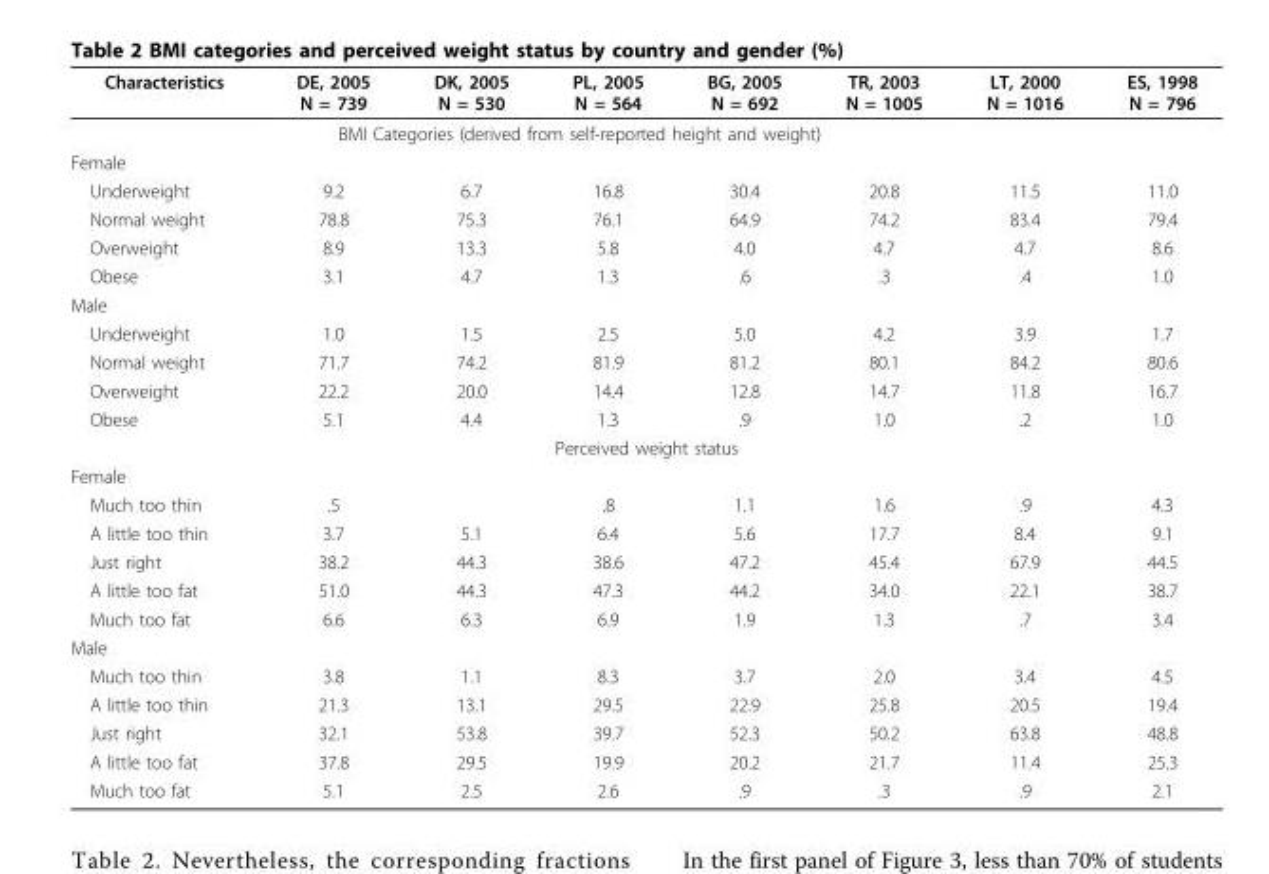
<table><thead><tr><td>Characteristics</td><td>DE, 2005 N = 739</td><td>DK, 2005 N = 530</td><td>PL, 2005 N = 564</td><td>BG, 2005 N = 692</td><td>TR, 2003 N = 1005</td><td>LT, 2000 N = 1016</td><td>ES, 1998 N = 796</td></tr></thead><tbody><tr><td colspan="8">BMI Categories (derived from self-reported height and weight)</td></tr><tr><td colspan="8">Female</td></tr><tr><td>Underweight</td><td>9.2</td><td>6.7</td><td>16.8</td><td>30.4</td><td>20.8</td><td>11.5</td><td>11.0</td></tr><tr><td>Normal weight</td><td>78.8</td><td>75.3</td><td>76.1</td><td>64.9</td><td>74.2</td><td>83.4</td><td>79.4</td></tr><tr><td>Overweight</td><td>8.9</td><td>13.3</td><td>5.8</td><td>4.0</td><td>4.7</td><td>4.7</td><td>8.6</td></tr><tr><td>Obese</td><td>3.1</td><td>4.7</td><td>1.3</td><td>.6</td><td>.3</td><td>.4</td><td>1.0</td></tr><tr><td colspan="8">Male</td></tr><tr><td>Underweight</td><td>1.0</td><td>1.5</td><td>2.5</td><td>5.0</td><td>4.2</td><td>3.9</td><td>1.7</td></tr><tr><td>Normal weight</td><td>71.7</td><td>74.2</td><td>81.9</td><td>81.2</td><td>80.1</td><td>84.2</td><td>80.6</td></tr><tr><td>Overweight</td><td>22.2</td><td>20.0</td><td>14.4</td><td>12.8</td><td>14.7</td><td>11.8</td><td>16.7</td></tr><tr><td>Obese</td><td>5.1</td><td>4.4</td><td>1.3</td><td>.9</td><td>1.0</td><td>.2</td><td>1.0</td></tr><tr><td colspan="8">Perceived weight status</td></tr><tr><td colspan="8">Female</td></tr><tr><td>Much too thin</td><td>.5</td><td></td><td>.8</td><td>1.1</td><td>1.6</td><td>.9</td><td>4.3</td></tr><tr><td>A little too thin</td><td>3.7</td><td>5.1</td><td>6.4</td><td>5.6</td><td>17.7</td><td>8.4</td><td>9.1</td></tr><tr><td>Just right</td><td>38.2</td><td>44.3</td><td>38.6</td><td>47.2</td><td>45.4</td><td>67.9</td><td>44.5</td></tr><tr><td>A little too fat</td><td>51.0</td><td>44.3</td><td>47.3</td><td>44.2</td><td>34.0</td><td>22.1</td><td>38.7</td></tr><tr><td>Much too fat</td><td>6.6</td><td>6.3</td><td>6.9</td><td>1.9</td><td>1.3</td><td>.7</td><td>3.4</td></tr><tr><td colspan="8">Male</td></tr><tr><td>Much too thin</td><td>3.8</td><td>1.1</td><td>8.3</td><td>3.7</td><td>2.0</td><td>3.4</td><td>4.5</td></tr><tr><td>A little too thin</td><td>21.3</td><td>13.1</td><td>29.5</td><td>22.9</td><td>25.8</td><td>20.5</td><td>19.4</td></tr><tr><td>Just right</td><td>32.1</td><td>53.8</td><td>39.7</td><td>52.3</td><td>50.2</td><td>63.8</td><td>48.8</td></tr><tr><td>A little too fat</td><td>37.8</td><td>29.5</td><td>19.9</td><td>20.2</td><td>21.7</td><td>11.4</td><td>25.3</td></tr><tr><td>Much too fat</td><td>5.1</td><td>2.5</td><td>2.6</td><td>.9</td><td>.3</td><td>.9</td><td>2.1</td></tr></tbody></table>